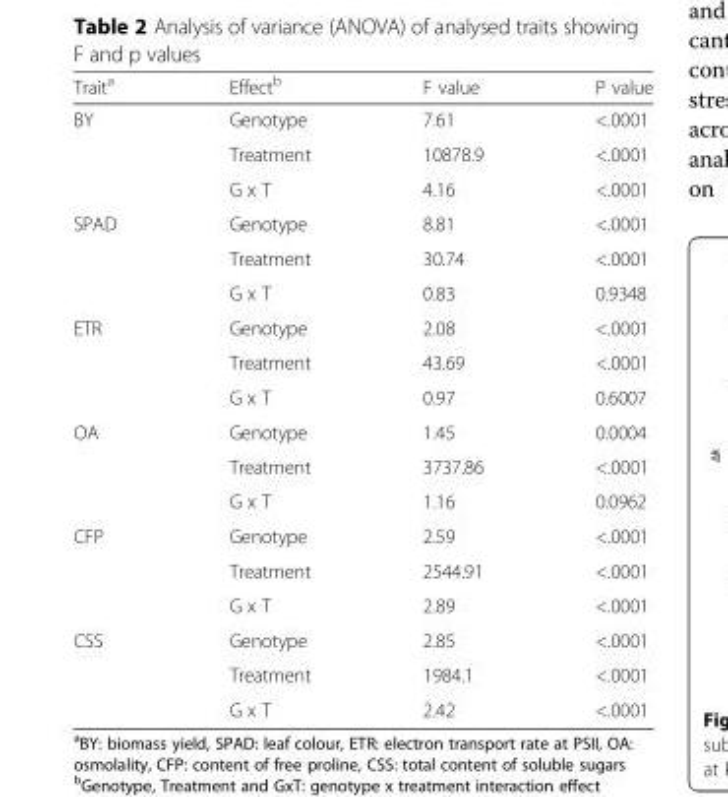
<table><thead><tr><td>Trait<sup>a</sup></td><td>Effect<sup>b</sup></td><td>F value</td><td>P value</td></tr></thead><tbody><tr><td rowspan="3">BY</td><td>Genotype</td><td>7.61</td><td>&lt;.0001</td></tr><tr><td>Treatment</td><td>10878.9</td><td>&lt;.0001</td></tr><tr><td>G x T</td><td>4.16</td><td>&lt;.0001</td></tr><tr><td rowspan="3">SPAD</td><td>Genotype</td><td>8.81</td><td>&lt;.0001</td></tr><tr><td>Treatment</td><td>30.74</td><td>&lt;.0001</td></tr><tr><td>G x T</td><td>0.83</td><td>0.9348</td></tr><tr><td rowspan="3">ETR</td><td>Genotype</td><td>2.08</td><td>&lt;.0001</td></tr><tr><td>Treatment</td><td>43.69</td><td>&lt;.0001</td></tr><tr><td>G x T</td><td>0.97</td><td>0.6007</td></tr><tr><td rowspan="3">OA</td><td>Genotype</td><td>1.45</td><td>0.0004</td></tr><tr><td>Treatment</td><td>3737.86</td><td>&lt;.0001</td></tr><tr><td>G x T</td><td>1.16</td><td>0.0962</td></tr><tr><td rowspan="3">CFP</td><td>Genotype</td><td>2.59</td><td>&lt;.0001</td></tr><tr><td>Treatment</td><td>2544.91</td><td>&lt;.0001</td></tr><tr><td>G x T</td><td>2.89</td><td>&lt;.0001</td></tr><tr><td rowspan="3">CSS</td><td>Genotype</td><td>2.85</td><td>&lt;.0001</td></tr><tr><td>Treatment</td><td>1984.1</td><td>&lt;.0001</td></tr><tr><td>G x T</td><td>2.42</td><td>&lt;.0001</td></tr></tbody></table>